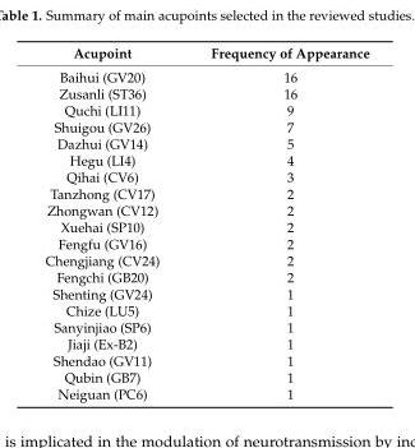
<table><thead><tr><td>Acupoint</td><td>Frequency of Appearance</td></tr></thead><tbody><tr><td>Baihui (GV20)</td><td>16</td></tr><tr><td>Zusanli (ST36)</td><td>16</td></tr><tr><td>Quchi (LI11)</td><td>9</td></tr><tr><td>Shuigou (GV26)</td><td>7</td></tr><tr><td>Dazhui (GV14)</td><td>5</td></tr><tr><td>Hegu (LI4)</td><td>4</td></tr><tr><td>Qihai (CV6)</td><td>3</td></tr><tr><td>Tanzhong (CV17)</td><td>2</td></tr><tr><td>Zhongwan (CV12)</td><td>2</td></tr><tr><td>Xuehai (SP10)</td><td>2</td></tr><tr><td>Fengfu (GV16)</td><td>2</td></tr><tr><td>Chengjiang (CV24)</td><td>2</td></tr><tr><td>Fengchi (GB20)</td><td>2</td></tr><tr><td>Shenting (GV24)</td><td>1</td></tr><tr><td>Chize (LU5)</td><td>1</td></tr><tr><td>Sanyinjiao (SP6)</td><td>1</td></tr><tr><td>Jiaji (Ex-B2)</td><td>1</td></tr><tr><td>Shendao (GV11)</td><td>1</td></tr><tr><td>Qubin (GB7)</td><td>1</td></tr><tr><td>Neiguan (PC6)</td><td>1</td></tr></tbody></table>